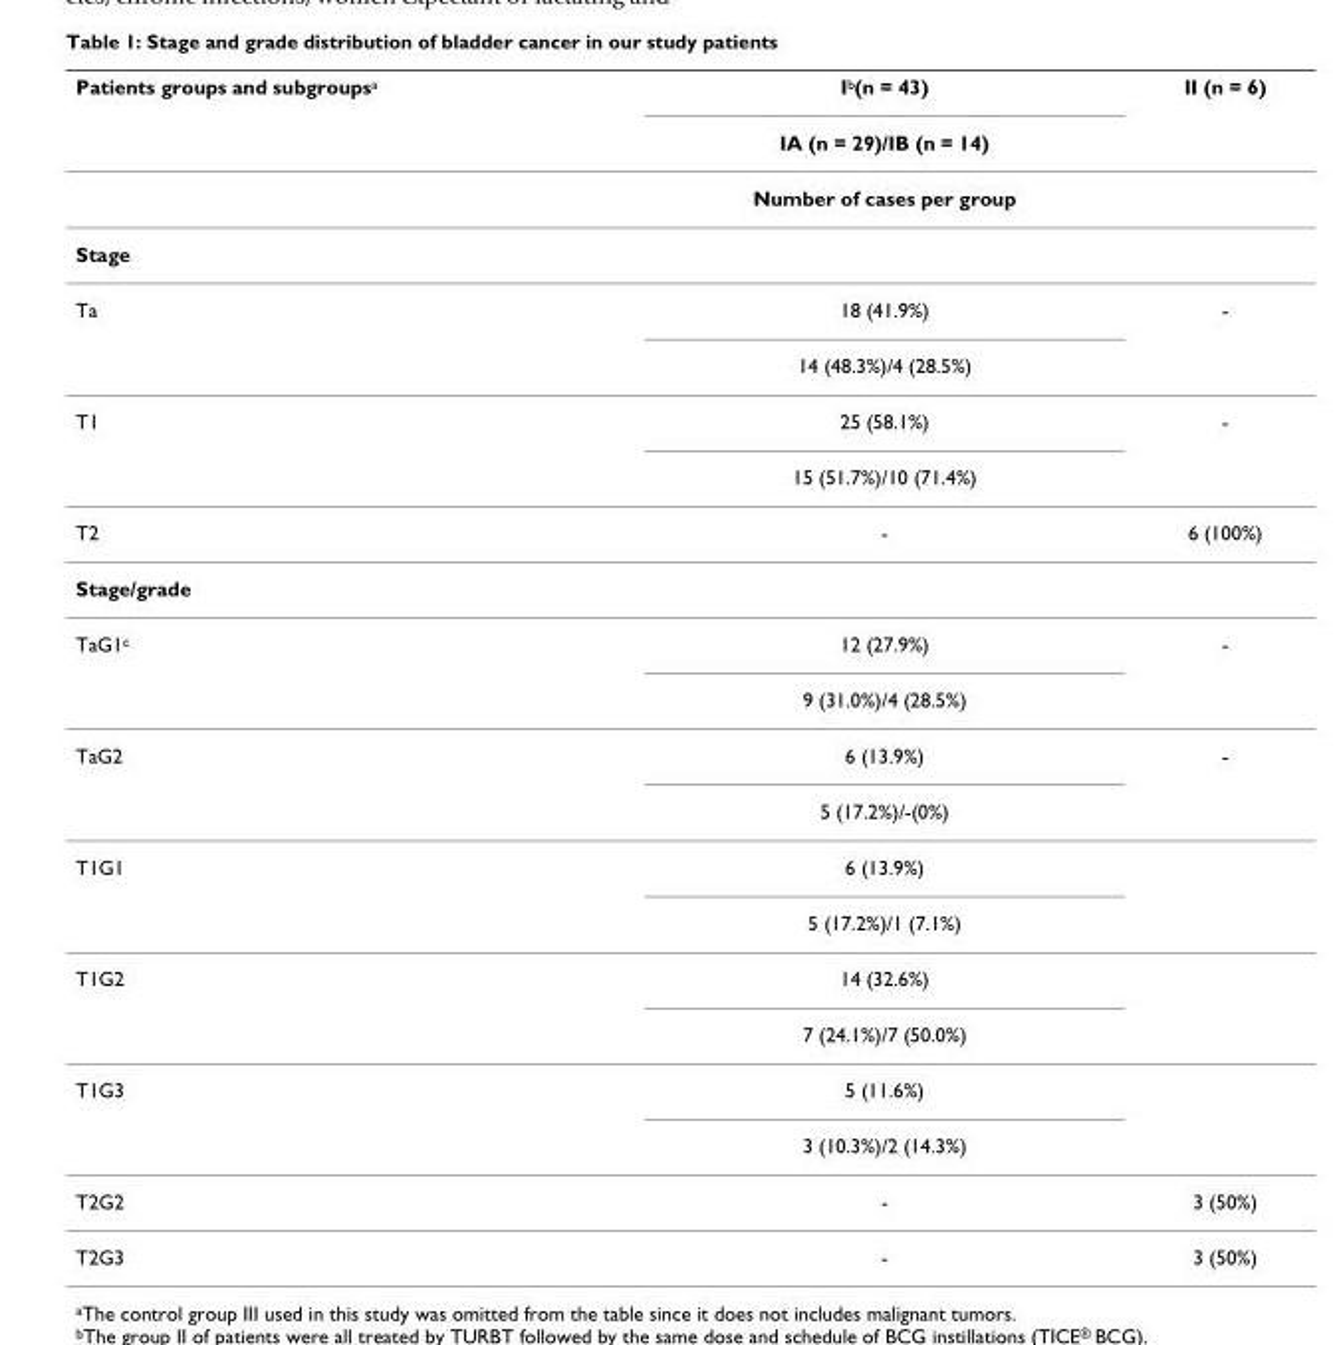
<table><thead><tr><td rowspan="2">Patients groups and subgroupsa</td><td rowspan="2">Ib(n = 43) IA (n = 29)/IB (n = 14)</td><td rowspan="2">II (n = 6)</td></tr><tr></tr></thead><tbody><tr><td></td><td>Number of cases per group</td><td></td></tr><tr><td colspan="3">Stage</td></tr><tr><td rowspan="2">Ta</td><td>18 (41.9%)</td><td>-</td></tr><tr><td>14 (48.3%)/4 (28.5%)</td><td></td></tr><tr><td rowspan="2">T1</td><td>25 (58.1%)</td><td>-</td></tr><tr><td>15 (51.7%)/10 (71.4%)</td><td></td></tr><tr><td>T2</td><td>-</td><td>6 (100%)</td></tr><tr><td colspan="3">Stage/grade</td></tr><tr><td rowspan="2">TaG1<sup>c</sup></td><td>12 (27.9%)</td><td>-</td></tr><tr><td>9 (31.0%)/4 (28.5%)</td><td></td></tr><tr><td rowspan="2">TaG2</td><td>6 (13.9%)</td><td>-</td></tr><tr><td>5 (17.2%)/-(0%)</td><td></td></tr><tr><td rowspan="2">T1G1</td><td>6 (13.9%)</td><td></td></tr><tr><td>5 (17.2%)/1 (7.1%)</td><td></td></tr><tr><td rowspan="2">T1G2</td><td>14 (32.6%)</td><td></td></tr><tr><td>7 (24.1%)/7 (50.0%)</td><td></td></tr><tr><td rowspan="2">T1G3</td><td>5 (11.6%)</td><td></td></tr><tr><td>3 (10.3%)/2 (14.3%)</td><td></td></tr><tr><td>T2G2</td><td>-</td><td>3 (50%)</td></tr><tr><td>T2G3</td><td>-</td><td>3 (50%)</td></tr></tbody></table>